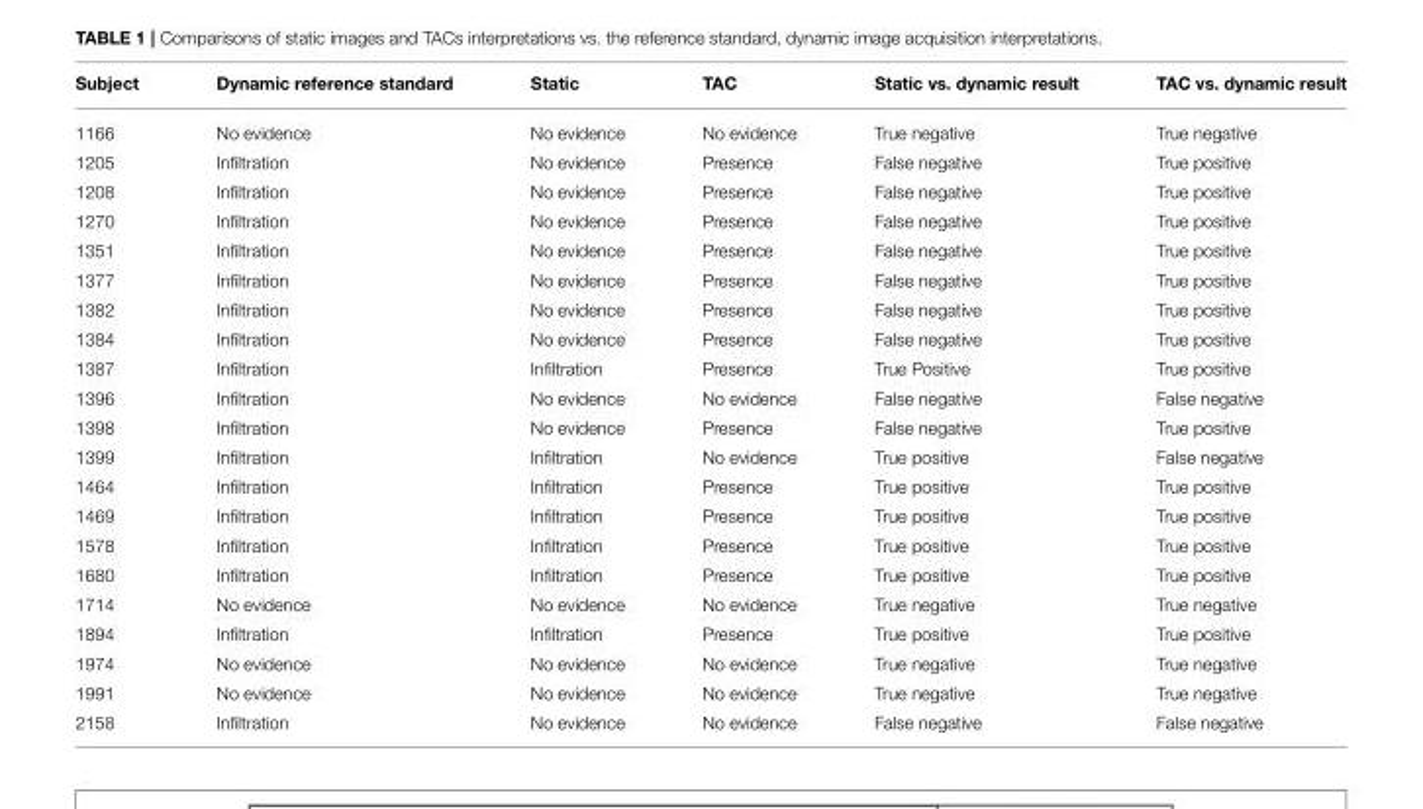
<table><thead><tr><td>Subject</td><td>Dynamic reference standard</td><td>Static</td><td>TAC</td><td>Static vs. dynamic result</td><td>TAC vs. dynamic result</td></tr></thead><tbody><tr><td>1166</td><td>No evidence</td><td>No evidence</td><td>No evidence</td><td>True negative</td><td>True negative</td></tr><tr><td>1205</td><td>Infiltration</td><td>No evidence</td><td>Presence</td><td>False negative</td><td>True positive</td></tr><tr><td>1208</td><td>Infiltration</td><td>No evidence</td><td>Presence</td><td>False negative</td><td>True positive</td></tr><tr><td>1270</td><td>Infiltration</td><td>No evidence</td><td>Presence</td><td>False negative</td><td>True positive</td></tr><tr><td>1351</td><td>Infiltration</td><td>No evidence</td><td>Presence</td><td>False negative</td><td>True positive</td></tr><tr><td>1377</td><td>Infiltration</td><td>No evidence</td><td>Presence</td><td>False negative</td><td>True positive</td></tr><tr><td>1382</td><td>Infiltration</td><td>No evidence</td><td>Presence</td><td>False negative</td><td>True positive</td></tr><tr><td>1384</td><td>Infiltration</td><td>No evidence</td><td>Presence</td><td>False negative</td><td>True positive</td></tr><tr><td>1387</td><td>Infiltration</td><td>Infiltration</td><td>Presence</td><td>True Positive</td><td>True positive</td></tr><tr><td>1396</td><td>Infiltration</td><td>No evidence</td><td>No evidence</td><td>False negative</td><td>False negative</td></tr><tr><td>1398</td><td>Infiltration</td><td>No evidence</td><td>Presence</td><td>False negative</td><td>True positive</td></tr><tr><td>1399</td><td>Infiltration</td><td>Infiltration</td><td>No evidence</td><td>True positive</td><td>False negative</td></tr><tr><td>1464</td><td>Infiltration</td><td>Infiltration</td><td>Presence</td><td>True positive</td><td>True positive</td></tr><tr><td>1469</td><td>Infiltration</td><td>Infiltration</td><td>Presence</td><td>True positive</td><td>True positive</td></tr><tr><td>1578</td><td>Infiltration</td><td>Infiltration</td><td>Presence</td><td>True positive</td><td>True positive</td></tr><tr><td>1680</td><td>Infiltration</td><td>Infiltration</td><td>Presence</td><td>True positive</td><td>True positive</td></tr><tr><td>1714</td><td>No evidence</td><td>No evidence</td><td>No evidence</td><td>True negative</td><td>True negative</td></tr><tr><td>1894</td><td>Infiltration</td><td>Infiltration</td><td>Presence</td><td>True positive</td><td>True positive</td></tr><tr><td>1974</td><td>No evidence</td><td>No evidence</td><td>No evidence</td><td>True negative</td><td>True negative</td></tr><tr><td>1991</td><td>No evidence</td><td>No evidence</td><td>No evidence</td><td>True negative</td><td>True negative</td></tr><tr><td>2158</td><td>Infiltration</td><td>No evidence</td><td>No evidence</td><td>False negative</td><td>False negative</td></tr></tbody></table>